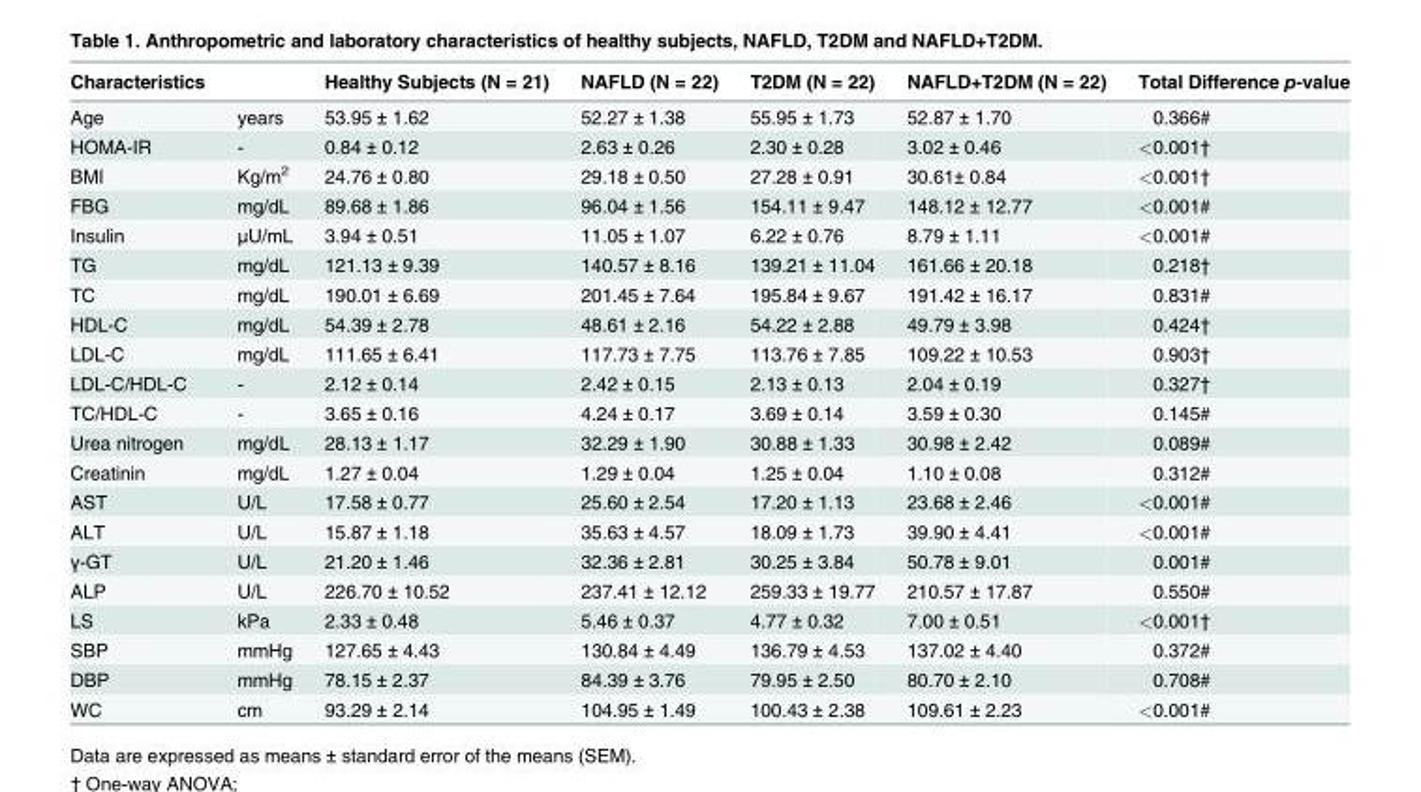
<table><thead><tr><td>Characteristics</td><td></td><td>Healthy Subjects (N = 21)</td><td>NAFLD (N = 22)</td><td>T2DM (N = 22)</td><td>NAFLD+T2DM (N = 22)</td><td>Total Difference p-value</td></tr></thead><tbody><tr><td>Age</td><td>years</td><td>53.95 ± 1.62</td><td>52.27 ± 1.38</td><td>55.95 ± 1.73</td><td>52.87 ± 1.70</td><td>0.366#</td></tr><tr><td>HOMA-IR</td><td>-</td><td>0.84 ± 0.12</td><td>2.63 ± 0.26</td><td>2.30 ± 0.28</td><td>3.02 ± 0.46</td><td>&lt;0.001†</td></tr><tr><td>BMI</td><td>Kg/m<sup>2</sup></td><td>24.76 ± 0.80</td><td>29.18 ± 0.50</td><td>27.28 ± 0.91</td><td>30.61± 0.84</td><td>&lt;0.001†</td></tr><tr><td>FBG</td><td>mg/dL</td><td>89.68 ± 1.86</td><td>96.04 ± 1.56</td><td>154.11 ± 9.47</td><td>148.12 ± 12.77</td><td>&lt;0.001#</td></tr><tr><td>Insulin</td><td>μU/mL</td><td>3.94 ± 0.51</td><td>11.05 ± 1.07</td><td>6.22 ± 0.76</td><td>8.79 ± 1.11</td><td>&lt;0.001#</td></tr><tr><td>TG</td><td>mg/dL</td><td>121.13 ± 9.39</td><td>140.57 ± 8.16</td><td>139.21 ± 11.04</td><td>161.66 ± 20.18</td><td>0.218†</td></tr><tr><td>TC</td><td>mg/dL</td><td>190.01 ± 6.69</td><td>201.45 ± 7.64</td><td>195.84 ± 9.67</td><td>191.42 ± 16.17</td><td>0.831#</td></tr><tr><td>HDL-C</td><td>mg/dL</td><td>54.39 ± 2.78</td><td>48.61 ± 2.16</td><td>54.22 ± 2.88</td><td>49.79 ± 3.98</td><td>0.424†</td></tr><tr><td>LDL-C</td><td>mg/dL</td><td>111.65 ± 6.41</td><td>117.73 ± 7.75</td><td>113.76 ± 7.85</td><td>109.22 ± 10.53</td><td>0.903†</td></tr><tr><td>LDL-C/HDL-C</td><td>-</td><td>2.12 ± 0.14</td><td>2.42 ± 0.15</td><td>2.13 ± 0.13</td><td>2.04 ± 0.19</td><td>0.327†</td></tr><tr><td>TC/HDL-C</td><td>-</td><td>3.65 ± 0.16</td><td>4.24 ± 0.17</td><td>3.69 ± 0.14</td><td>3.59 ± 0.30</td><td>0.145#</td></tr><tr><td>Urea nitrogen</td><td>mg/dL</td><td>28.13 ± 1.17</td><td>32.29 ± 1.90</td><td>30.88 ± 1.33</td><td>30.98 ± 2.42</td><td>0.089#</td></tr><tr><td>Creatinin</td><td>mg/dL</td><td>1.27 ± 0.04</td><td>1.29 ± 0.04</td><td>1.25 ± 0.04</td><td>1.10 ± 0.08</td><td>0.312#</td></tr><tr><td>AST</td><td>U/L</td><td>17.58 ± 0.77</td><td>25.60 ± 2.54</td><td>17.20 ± 1.13</td><td>23.68 ± 2.46</td><td>&lt;0.001#</td></tr><tr><td>ALT</td><td>U/L</td><td>15.87 ± 1.18</td><td>35.63 ± 4.57</td><td>18.09 ± 1.73</td><td>39.90 ± 4.41</td><td>&lt;0.001#</td></tr><tr><td>γ-GT</td><td>U/L</td><td>21.20 ± 1.46</td><td>32.36 ± 2.81</td><td>30.25 ± 3.84</td><td>50.78 ± 9.01</td><td>0.001#</td></tr><tr><td>ALP</td><td>U/L</td><td>226.70 ± 10.52</td><td>237.41 ± 12.12</td><td>259.33 ± 19.77</td><td>210.57 ± 17.87</td><td>0.550#</td></tr><tr><td>LS</td><td>kPa</td><td>2.33 ± 0.48</td><td>5.46 ± 0.37</td><td>4.77 ± 0.32</td><td>7.00 ± 0.51</td><td>&lt;0.001†</td></tr><tr><td>SBP</td><td>mmHg</td><td>127.65 ± 4.43</td><td>130.84 ± 4.49</td><td>136.79 ± 4.53</td><td>137.02 ± 4.40</td><td>0.372#</td></tr><tr><td>DBP</td><td>mmHg</td><td>78.15 ± 2.37</td><td>84.39 ± 3.76</td><td>79.95 ± 2.50</td><td>80.70 ± 2.10</td><td>0.708#</td></tr><tr><td>WC</td><td>cm</td><td>93.29 ± 2.14</td><td>104.95 ± 1.49</td><td>100.43 ± 2.38</td><td>109.61 ± 2.23</td><td>&lt;0.001#</td></tr></tbody></table>